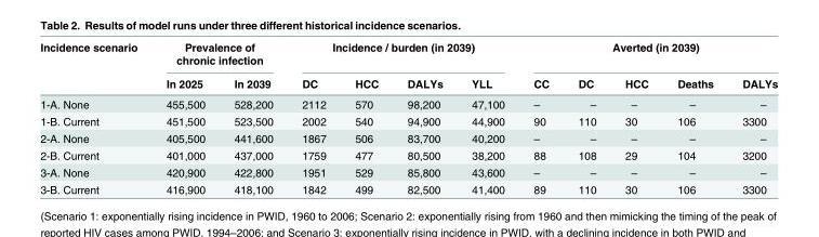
<table><thead><tr><td rowspan="2">Incidence scenario</td><td colspan="2">Prevalence of chronic infection</td><td colspan="4">Incidence / burden (in 2039)</td><td colspan="5">Averted (in 2039)</td></tr><tr><td>In 2025</td><td>In 2039</td><td>DC</td><td>HCC</td><td>DALYs</td><td>YLL</td><td>CC</td><td>DC</td><td>HCC</td><td>Deaths</td><td>DALYs</td></tr></thead><tbody><tr><td>1-A. None</td><td>455,500</td><td>528,200</td><td>2112</td><td>570</td><td>98,200</td><td>47,100</td><td>–</td><td>–</td><td>–</td><td>–</td><td>–</td></tr><tr><td>1-B. Current</td><td>451,500</td><td>523,500</td><td>2002</td><td>540</td><td>94,900</td><td>44,900</td><td>90</td><td>110</td><td>30</td><td>106</td><td>3300</td></tr><tr><td>2-A. None</td><td>405,500</td><td>441,600</td><td>1867</td><td>506</td><td>83,700</td><td>40,200</td><td>–</td><td>–</td><td>–</td><td>–</td><td>–</td></tr><tr><td>2-B. Current</td><td>401,000</td><td>437,000</td><td>1759</td><td>477</td><td>80,500</td><td>38,200</td><td>88</td><td>108</td><td>29</td><td>104</td><td>3200</td></tr><tr><td>3-A. None</td><td>420,900</td><td>422,800</td><td>1951</td><td>529</td><td>85,800</td><td>43,600</td><td>–</td><td>–</td><td>–</td><td>–</td><td>–</td></tr><tr><td>3-B. Current</td><td>416,900</td><td>418,100</td><td>1842</td><td>499</td><td>82,500</td><td>41,400</td><td>89</td><td>110</td><td>30</td><td>106</td><td>3300</td></tr></tbody></table>